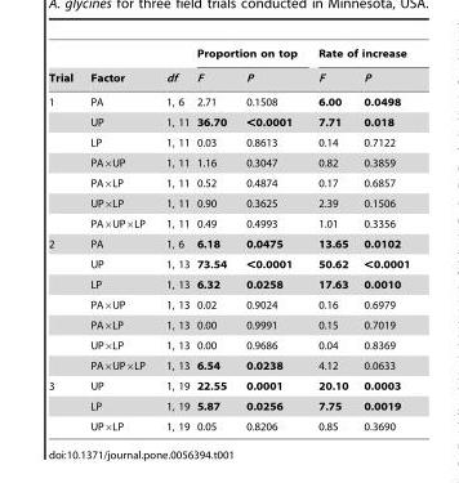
<table><thead><tr><td rowspan="2">Trial</td><td rowspan="2">Factor</td><td rowspan="2">df</td><td colspan="2">Proportion on top</td><td colspan="2">Rate of increase</td></tr><tr><td>F</td><td>P</td><td>F</td><td>P</td></tr></thead><tbody><tr><td rowspan="7">1</td><td>PA</td><td>1, 6</td><td>2.71</td><td>0.1508</td><td>6.00</td><td>0.0498</td></tr><tr><td>UP</td><td>1, 11</td><td>36.70</td><td>&lt;0.0001</td><td>7.71</td><td>0.018</td></tr><tr><td>LP</td><td>1, 11</td><td>0.03</td><td>0.8613</td><td>0.14</td><td>0.7122</td></tr><tr><td>PA×UP</td><td>1, 11</td><td>1.16</td><td>0.3047</td><td>0.82</td><td>0.3859</td></tr><tr><td>PA×LP</td><td>1, 11</td><td>0.52</td><td>0.4874</td><td>0.17</td><td>0.6857</td></tr><tr><td>UP×LP</td><td>1, 11</td><td>0.90</td><td>0.3625</td><td>2.39</td><td>0.1506</td></tr><tr><td>PA×UP×LP</td><td>1, 11</td><td>0.49</td><td>0.4993</td><td>1.01</td><td>0.3356</td></tr><tr><td rowspan="7">2</td><td>PA</td><td>1, 6</td><td>6.18</td><td>0.0475</td><td>13.65</td><td>0.0102</td></tr><tr><td>UP</td><td>1, 13</td><td>73.54</td><td>&lt;0.0001</td><td>50.62</td><td>&lt;0.0001</td></tr><tr><td>LP</td><td>1, 13</td><td>6.32</td><td>0.0258</td><td>17.63</td><td>0.0010</td></tr><tr><td>PA×UP</td><td>1, 13</td><td>0.02</td><td>0.9024</td><td>0.16</td><td>0.6979</td></tr><tr><td>PA×LP</td><td>1, 13</td><td>0.00</td><td>0.9991</td><td>0.15</td><td>0.7019</td></tr><tr><td>UP×LP</td><td>1, 13</td><td>0.00</td><td>0.9686</td><td>0.04</td><td>0.8369</td></tr><tr><td>PA×UP×LP</td><td>1, 13</td><td>6.54</td><td>0.0238</td><td>4.12</td><td>0.0633</td></tr><tr><td rowspan="3">3</td><td>UP</td><td>1, 19</td><td>22.55</td><td>0.0001</td><td>20.10</td><td>0.0003</td></tr><tr><td>LP</td><td>1, 19</td><td>5.87</td><td>0.0256</td><td>7.75</td><td>0.0019</td></tr><tr><td>UP×LP</td><td>1, 19</td><td>0.05</td><td>0.8206</td><td>0.85</td><td>0.3690</td></tr></tbody></table>